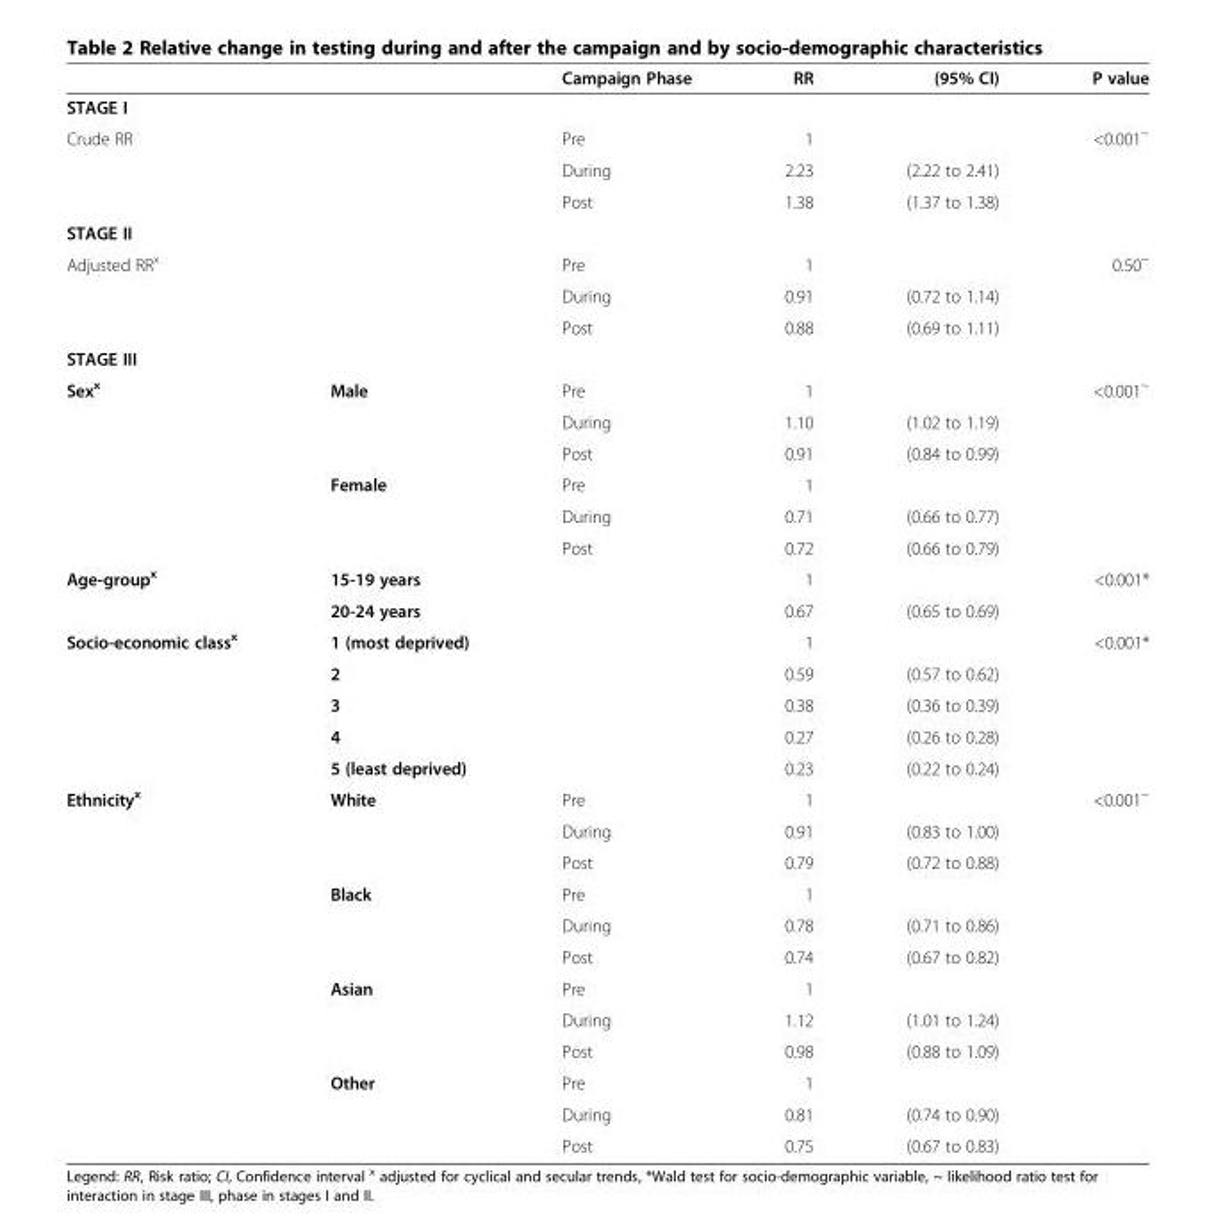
<table><thead><tr><td></td><td></td><td>Campaign Phase</td><td>RR</td><td>(95% CI)</td><td>P value</td></tr></thead><tbody><tr><td colspan="6">STAGE I</td></tr><tr><td rowspan="3">Crude RR</td><td></td><td>Pre</td><td>1</td><td></td><td>&lt;0.001<sup>~</sup></td></tr><tr><td></td><td>During</td><td>2.23</td><td>(2.22 to 2.41)</td><td></td></tr><tr><td></td><td>Post</td><td>1.38</td><td>(1.37 to 1.38)</td><td></td></tr><tr><td colspan="6">STAGE II</td></tr><tr><td rowspan="3">Adjusted RR<sup>x</sup></td><td></td><td>Pre</td><td>1</td><td></td><td>0.50<sup>~</sup></td></tr><tr><td></td><td>During</td><td>0.91</td><td>(0.72 to 1.14)</td><td></td></tr><tr><td></td><td>Post</td><td>0.88</td><td>(0.69 to 1.11)</td><td></td></tr><tr><td colspan="6">STAGE III</td></tr><tr><td rowspan="6">Sex<sup>x</sup></td><td>Male</td><td>Pre</td><td>1</td><td></td><td>&lt;0.001<sup>~</sup></td></tr><tr><td></td><td>During</td><td>1.10</td><td>(1.02 to 1.19)</td><td></td></tr><tr><td></td><td>Post</td><td>0.91</td><td>(0.84 to 0.99)</td><td></td></tr><tr><td>Female</td><td>Pre</td><td>1</td><td></td><td></td></tr><tr><td></td><td>During</td><td>0.71</td><td>(0.66 to 0.77)</td><td></td></tr><tr><td></td><td>Post</td><td>0.72</td><td>(0.66 to 0.79)</td><td></td></tr><tr><td rowspan="2">Age-group<sup>x</sup></td><td>15-19 years</td><td></td><td>1</td><td></td><td>&lt;0.001*</td></tr><tr><td>20-24 years</td><td></td><td>0.67</td><td>(0.65 to 0.69)</td><td></td></tr><tr><td rowspan="5">Socio-economic class<sup>x</sup></td><td>1 (most deprived)</td><td></td><td>1</td><td></td><td>&lt;0.001*</td></tr><tr><td>2</td><td></td><td>0.59</td><td>(0.57 to 0.62)</td><td></td></tr><tr><td>3</td><td></td><td>0.38</td><td>(0.36 to 0.39)</td><td></td></tr><tr><td>4</td><td></td><td>0.27</td><td>(0.26 to 0.28)</td><td></td></tr><tr><td>5 (least deprived)</td><td></td><td>0.23</td><td>(0.22 to 0.24)</td><td></td></tr><tr><td rowspan="12">Ethnicity<sup>x</sup></td><td>White</td><td>Pre</td><td>1</td><td></td><td>&lt;0.001<sup>~</sup></td></tr><tr><td></td><td>During</td><td>0.91</td><td>(0.83 to 1.00)</td><td></td></tr><tr><td></td><td>Post</td><td>0.79</td><td>(0.72 to 0.88)</td><td></td></tr><tr><td>Black</td><td>Pre</td><td>1</td><td></td><td></td></tr><tr><td></td><td>During</td><td>0.78</td><td>(0.71 to 0.86)</td><td></td></tr><tr><td></td><td>Post</td><td>0.74</td><td>(0.67 to 0.82)</td><td></td></tr><tr><td>Asian</td><td>Pre</td><td>1</td><td></td><td></td></tr><tr><td></td><td>During</td><td>1.12</td><td>(1.01 to 1.24)</td><td></td></tr><tr><td></td><td>Post</td><td>0.98</td><td>(0.88 to 1.09)</td><td></td></tr><tr><td>Other</td><td>Pre</td><td>1</td><td></td><td></td></tr><tr><td></td><td>During</td><td>0.81</td><td>(0.74 to 0.90)</td><td></td></tr><tr><td></td><td>Post</td><td>0.75</td><td>(0.67 to 0.83)</td><td></td></tr></tbody></table>